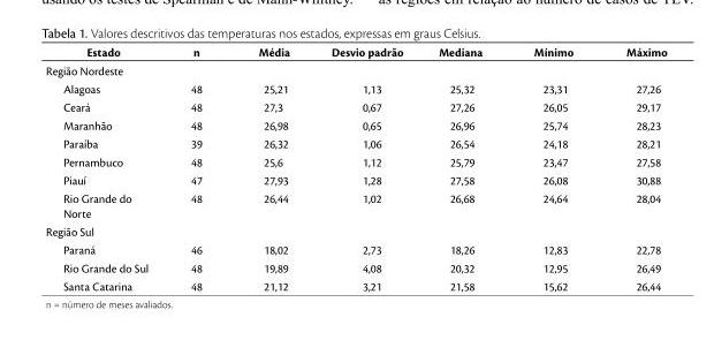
<table><thead><tr><td>Estado</td><td>n</td><td>Média</td><td>Desvio padrão</td><td>Mediana</td><td>Mínimo</td><td>Máximo</td></tr></thead><tbody><tr><td colspan="7">Região Nordeste</td></tr><tr><td>Alagoas</td><td>48</td><td>25,21</td><td>1,13</td><td>25,32</td><td>23,31</td><td>27,26</td></tr><tr><td>Ceará</td><td>48</td><td>27,3</td><td>0,67</td><td>27,26</td><td>26,05</td><td>29,17</td></tr><tr><td>Maranhão</td><td>48</td><td>26,98</td><td>0,65</td><td>26,96</td><td>25,74</td><td>28,23</td></tr><tr><td>Paraíba</td><td>39</td><td>26,32</td><td>1,06</td><td>26,54</td><td>24,18</td><td>28,21</td></tr><tr><td>Pernambuco</td><td>48</td><td>25,6</td><td>1,12</td><td>25,79</td><td>23,47</td><td>27,58</td></tr><tr><td>Piauí</td><td>47</td><td>27,93</td><td>1,28</td><td>27,58</td><td>26,08</td><td>30,88</td></tr><tr><td>Rio Grande do Norte</td><td>48</td><td>26,44</td><td>1,02</td><td>26,68</td><td>24,64</td><td>28,04</td></tr><tr><td colspan="7">Região Sul</td></tr><tr><td>Paraná</td><td>46</td><td>18,02</td><td>2,73</td><td>18,26</td><td>12,83</td><td>22,78</td></tr><tr><td>Rio Grande do Sul</td><td>48</td><td>19,89</td><td>4,08</td><td>20,32</td><td>12,95</td><td>26,49</td></tr><tr><td>Santa Catarina</td><td>48</td><td>21,12</td><td>3,21</td><td>21,58</td><td>15,62</td><td>26,44</td></tr></tbody></table>